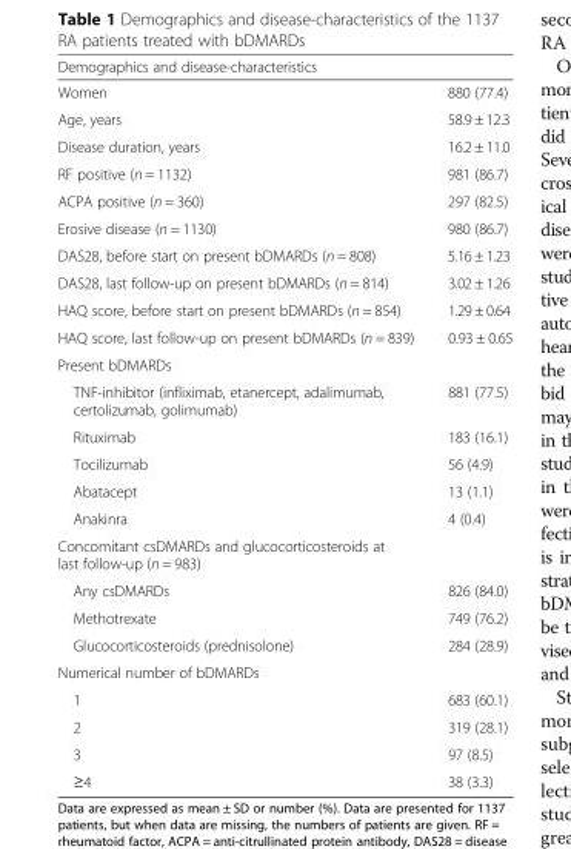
<table><thead><tr><td colspan="2">Demographics and disease-characteristics</td></tr><tr><td>Women</td><td>880 (77.4)</td></tr></thead><tbody><tr><td>Age, years</td><td>58.9 ± 12.3</td></tr><tr><td>Disease duration, years</td><td>16.2 ± 11.0</td></tr><tr><td>RF positive (n = 1132)</td><td>981 (86.7)</td></tr><tr><td>ACPA positive (n = 360)</td><td>297 (82.5)</td></tr><tr><td>Erosive disease (n = 1130)</td><td>980 (86.7)</td></tr><tr><td>DAS28, before start on present bDMARDs (n = 808)</td><td>5.16 ± 1.23</td></tr><tr><td>DAS28, last follow-up on present bDMARDs (n = 814)</td><td>3.02 ± 1.26</td></tr><tr><td>HAQ score, before start on present bDMARDs (n = 854)</td><td>1.29 ± 0.64</td></tr><tr><td>HAQ score, last follow-up on present bDMARDs (n = 839)</td><td>0.93 ± 0.65</td></tr><tr><td colspan="2">Present bDMARDs</td></tr><tr><td>TNF-inhibitor (infliximab, etanercept, adalimumab, certolizumab, golimumab)</td><td>881 (77.5)</td></tr><tr><td>Rituximab</td><td>183 (16.1)</td></tr><tr><td>Tocilizumab</td><td>56 (4.9)</td></tr><tr><td>Abatacept</td><td>13 (1.1)</td></tr><tr><td>Anakinra</td><td>4 (0.4)</td></tr><tr><td colspan="2">Concomitant csDMARDs and glucocorticosteroids at last follow-up (n = 983)</td></tr><tr><td>Any csDMARDs</td><td>826 (84.0)</td></tr><tr><td>Methotrexate</td><td>749 (76.2)</td></tr><tr><td>Glucocorticosteroids (prednisolone)</td><td>284 (28.9)</td></tr><tr><td colspan="2">Numerical number of bDMARDs</td></tr><tr><td>1</td><td>683 (60.1)</td></tr><tr><td>2</td><td>319 (28.1)</td></tr><tr><td>3</td><td>97 (8.5)</td></tr><tr><td>≥4</td><td>38 (3.3)</td></tr></tbody></table>